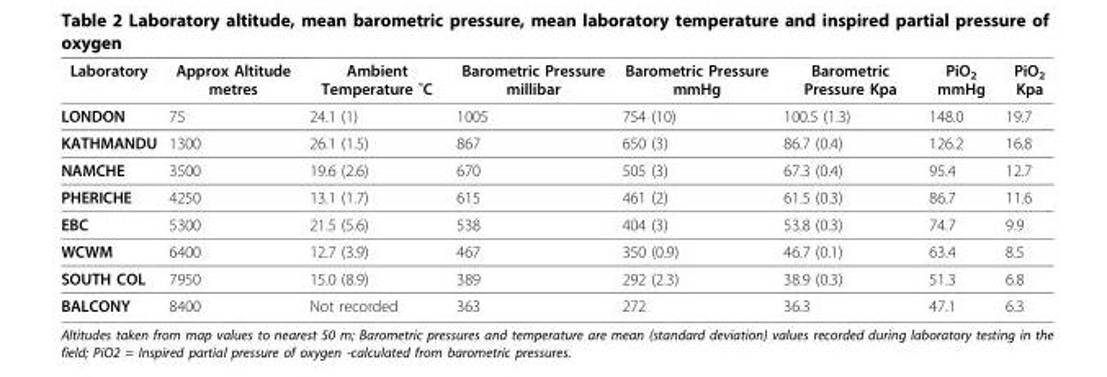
<table><thead><tr><td>Laboratory</td><td>Approx Altitude metres</td><td>Ambient Temperature ˚C</td><td>Barometric Pressure millibar</td><td>Barometric Pressure mmHg</td><td>Barometric Pressure Kpa</td><td>PiO<sub>2</sub> mmHg</td><td>PiO<sub>2</sub> Kpa</td></tr></thead><tbody><tr><td>LONDON</td><td>75</td><td>24.1 (1)</td><td>1005</td><td>754 (10)</td><td>100.5 (1.3)</td><td>148.0</td><td>19.7</td></tr><tr><td>KATHMANDU</td><td>1300</td><td>26.1 (1.5)</td><td>867</td><td>650 (3)</td><td>86.7 (0.4)</td><td>126.2</td><td>16.8</td></tr><tr><td>NAMCHE</td><td>3500</td><td>19.6 (2.6)</td><td>670</td><td>505 (3)</td><td>67.3 (0.4)</td><td>95.4</td><td>12.7</td></tr><tr><td>PHERICHE</td><td>4250</td><td>13.1 (1.7)</td><td>615</td><td>461 (2)</td><td>61.5 (0.3)</td><td>86.7</td><td>11.6</td></tr><tr><td>EBC</td><td>5300</td><td>21.5 (5.6)</td><td>538</td><td>404 (3)</td><td>53.8 (0.3)</td><td>74.7</td><td>9.9</td></tr><tr><td>WCWM</td><td>6400</td><td>12.7 (3.9)</td><td>467</td><td>350 (0.9)</td><td>46.7 (0.1)</td><td>63.4</td><td>8.5</td></tr><tr><td>SOUTH COL</td><td>7950</td><td>15.0 (8.9)</td><td>389</td><td>292 (2.3)</td><td>38.9 (0.3)</td><td>51.3</td><td>6.8</td></tr><tr><td>BALCONY</td><td>8400</td><td>Not recorded</td><td>363</td><td>272</td><td>36.3</td><td>47.1</td><td>6.3</td></tr></tbody></table>